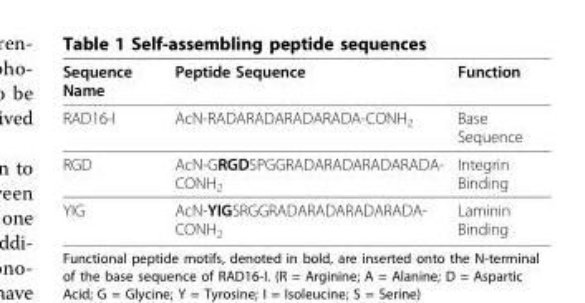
<table><thead><tr><td>Sequence Name</td><td>Peptide Sequence</td><td>Function</td></tr></thead><tbody><tr><td>RAD16-I</td><td>AcN-RADARADARADARADA-CONH<sub>2</sub></td><td>Base Sequence</td></tr><tr><td>RGD</td><td>AcN-GRGDSPGGRADARADARADARADA- CONH<sub>2</sub></td><td>Integrin Binding</td></tr><tr><td>YIG</td><td>AcN-YIGSRGGRADARADARADARADA- CONH<sub>2</sub></td><td>Laminin Binding</td></tr></tbody></table>